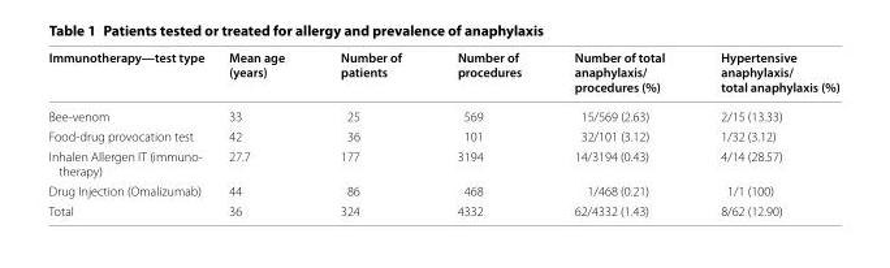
<table><thead><tr><td>Immunotherapy—test type</td><td>Mean age (years)</td><td>Number of patients</td><td>Number of procedures</td><td>Number of total anaphylaxis/ procedures (%)</td><td>Hypertensive anaphylaxis/ total anaphylaxis (%)</td></tr></thead><tbody><tr><td>Bee-venom</td><td>33</td><td>25</td><td>569</td><td>15/569 (2.63)</td><td>2/15 (13.33)</td></tr><tr><td>Food-drug provocation test</td><td>42</td><td>36</td><td>101</td><td>32/101 (3.12)</td><td>1/32 (3.12)</td></tr><tr><td>Inhalen Allergen IT (immuno- therapy)</td><td>27.7</td><td>177</td><td>3194</td><td>14/3194 (0.43)</td><td>4/14 (28.57)</td></tr><tr><td>Drug Injection (Omalizumab)</td><td>44</td><td>86</td><td>468</td><td>1/468 (0.21)</td><td>1/1 (100)</td></tr><tr><td>Total</td><td>36</td><td>324</td><td>4332</td><td>62/4332 (1.43)</td><td>8/62 (12.90)</td></tr></tbody></table>